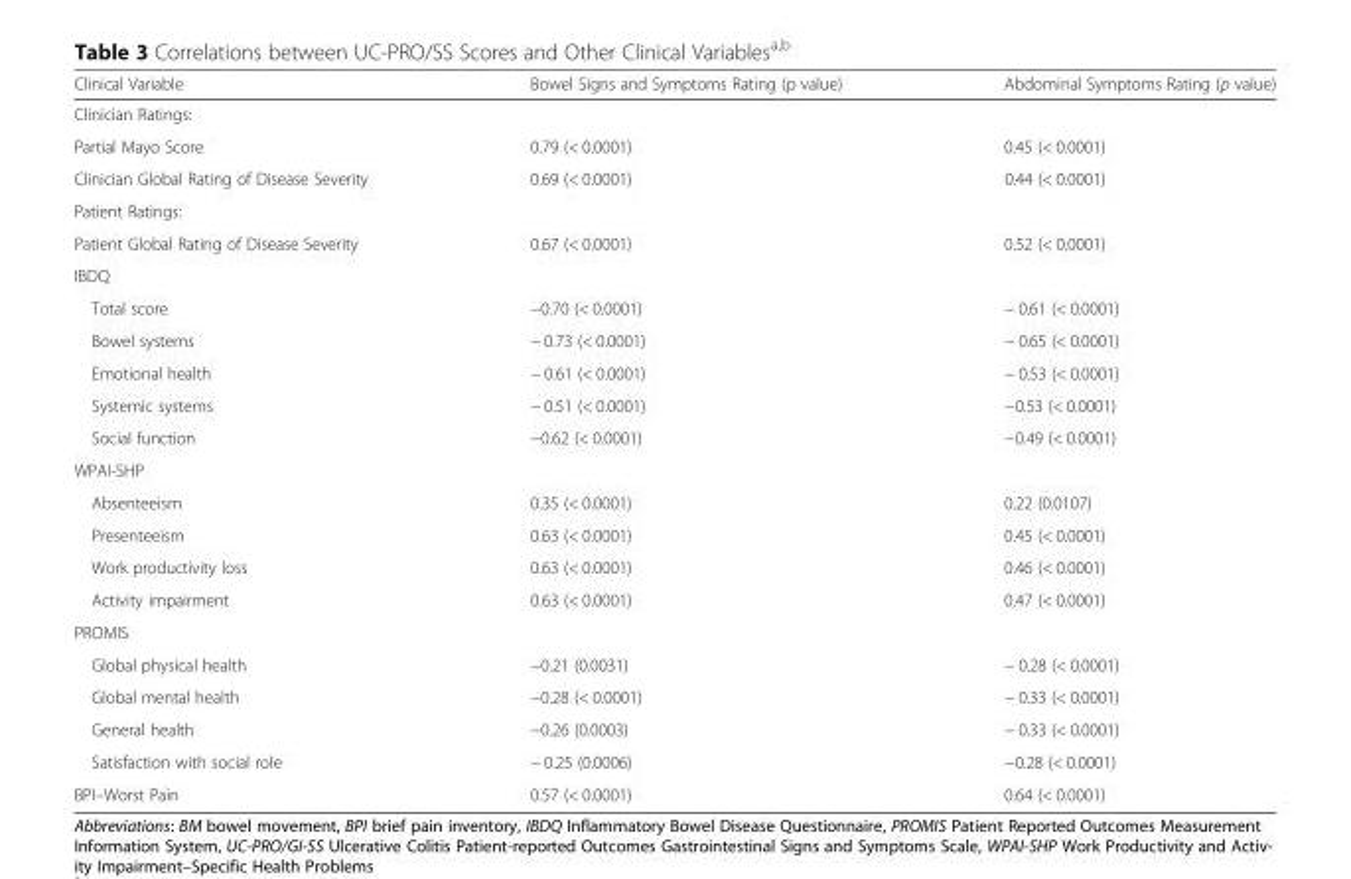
<table><thead><tr><td>Clinical Variable</td><td>Bowel Signs and Symptoms Rating (p value)</td><td>Abdominal Symptoms Rating (p value)</td></tr></thead><tbody><tr><td colspan="3">Clinician Ratings:</td></tr><tr><td>Partial Mayo Score</td><td>0.79 (&lt; 0.0001)</td><td>0.45 (&lt; 0.0001)</td></tr><tr><td>Clinician Global Rating of Disease Severity</td><td>0.69 (&lt; 0.0001)</td><td>0.44 (&lt; 0.0001)</td></tr><tr><td colspan="3">Patient Ratings:</td></tr><tr><td>Patient Global Rating of Disease Severity</td><td>0.67 (&lt; 0.0001)</td><td>0.52 (&lt; 0.0001)</td></tr><tr><td colspan="3">IBDQ</td></tr><tr><td>Total score</td><td>−0.70 (&lt; 0.0001)</td><td>− 0.61 (&lt; 0.0001)</td></tr><tr><td>Bowel systems</td><td>− 0.73 (&lt; 0.0001)</td><td>− 0.65 (&lt; 0.0001)</td></tr><tr><td>Emotional health</td><td>− 0.61 (&lt; 0.0001)</td><td>− 0.53 (&lt; 0.0001)</td></tr><tr><td>Systemic systems</td><td>− 0.51 (&lt; 0.0001)</td><td>−0.53 (&lt; 0.0001)</td></tr><tr><td>Social function</td><td>−0.62 (&lt; 0.0001)</td><td>−0.49 (&lt; 0.0001)</td></tr><tr><td colspan="3">WPAI-SHP</td></tr><tr><td>Absenteeism</td><td>0.35 (&lt; 0.0001)</td><td>0.22 (0.0107)</td></tr><tr><td>Presenteeism</td><td>0.63 (&lt; 0.0001)</td><td>0.45 (&lt; 0.0001)</td></tr><tr><td>Work productivity loss</td><td>0.63 (&lt; 0.0001)</td><td>0.46 (&lt; 0.0001)</td></tr><tr><td>Activity impairment</td><td>0.63 (&lt; 0.0001)</td><td>0.47 (&lt; 0.0001)</td></tr><tr><td colspan="3">PROMIS</td></tr><tr><td>Global physical health</td><td>−0.21 (0.0031)</td><td>− 0.28 (&lt; 0.0001)</td></tr><tr><td>Global mental health</td><td>−0.28 (&lt; 0.0001)</td><td>− 0.33 (&lt; 0.0001)</td></tr><tr><td>General health</td><td>−0.26 (0.0003)</td><td>− 0.33 (&lt; 0.0001)</td></tr><tr><td>Satisfaction with social role</td><td>− 0.25 (0.0006)</td><td>−0.28 (&lt; 0.0001)</td></tr><tr><td>BPI–Worst Pain</td><td>0.57 (&lt; 0.0001)</td><td>0.64 (&lt; 0.0001)</td></tr></tbody></table>